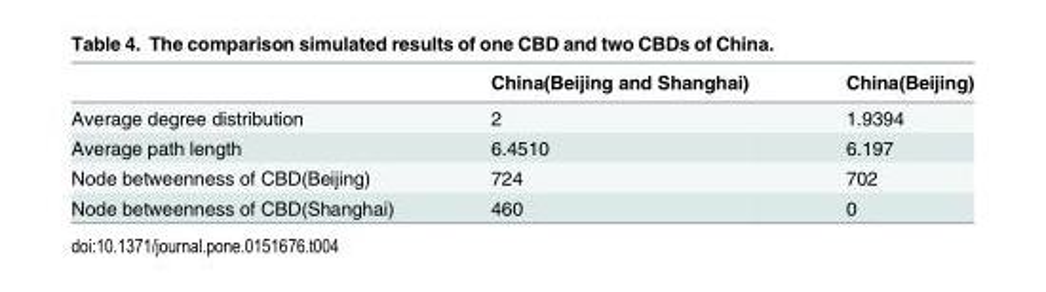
<table><thead><tr><td></td><td>China(Beijing and Shanghai)</td><td>China(Beijing)</td></tr></thead><tbody><tr><td>Average degree distribution</td><td>2</td><td>1.9394</td></tr><tr><td>Average path length</td><td>6.4510</td><td>6.197</td></tr><tr><td>Node betweenness of CBD(Beijing)</td><td>724</td><td>702</td></tr><tr><td>Node betweenness of CBD(Shanghai)</td><td>460</td><td>0</td></tr></tbody></table>